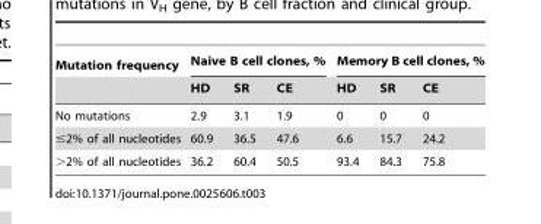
<table><thead><tr><td rowspan="2">Mutation frequency</td><td colspan="3">Naive B cell clones, %</td><td colspan="3">Memory B cell clones, %</td></tr><tr><td>HD</td><td>SR</td><td>CE</td><td>HD</td><td>SR</td><td>CE</td></tr></thead><tbody><tr><td>No mutations</td><td>2.9</td><td>3.1</td><td>1.9</td><td>0</td><td>0</td><td>0</td></tr><tr><td>≤2% of all nucleotides</td><td>60.9</td><td>36.5</td><td>47.6</td><td>6.6</td><td>15.7</td><td>24.2</td></tr><tr><td>&gt;2% of all nucleotides</td><td>36.2</td><td>60.4</td><td>50.5</td><td>93.4</td><td>84.3</td><td>75.8</td></tr></tbody></table>